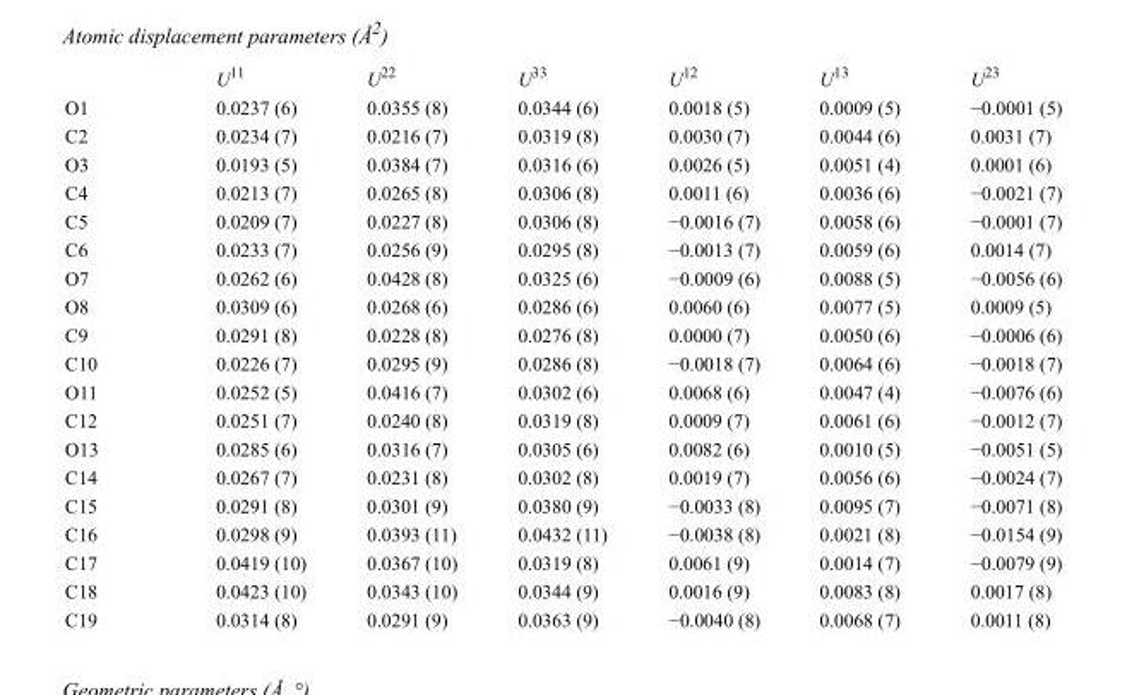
<table><thead><tr><td></td><td>U<sup>11</sup></td><td>U<sup>22</sup></td><td>U<sup>33</sup></td><td>U<sup>12</sup></td><td>U<sup>13</sup></td><td>U<sup>23</sup></td></tr></thead><tbody><tr><td>O1</td><td>0.0237 (6)</td><td>0.0355 (8)</td><td>0.0344 (6)</td><td>0.0018 (5)</td><td>0.0009 (5)</td><td>−0.0001 (5)</td></tr><tr><td>C2</td><td>0.0234 (7)</td><td>0.0216 (7)</td><td>0.0319 (8)</td><td>0.0030 (7)</td><td>0.0044 (6)</td><td>0.0031 (7)</td></tr><tr><td>O3</td><td>0.0193 (5)</td><td>0.0384 (7)</td><td>0.0316 (6)</td><td>0.0026 (5)</td><td>0.0051 (4)</td><td>0.0001 (6)</td></tr><tr><td>C4</td><td>0.0213 (7)</td><td>0.0265 (8)</td><td>0.0306 (8)</td><td>0.0011 (6)</td><td>0.0036 (6)</td><td>−0.0021 (7)</td></tr><tr><td>C5</td><td>0.0209 (7)</td><td>0.0227 (8)</td><td>0.0306 (8)</td><td>−0.0016 (7)</td><td>0.0058 (6)</td><td>−0.0001 (7)</td></tr><tr><td>C6</td><td>0.0233 (7)</td><td>0.0256 (9)</td><td>0.0295 (8)</td><td>−0.0013 (7)</td><td>0.0059 (6)</td><td>0.0014 (7)</td></tr><tr><td>O7</td><td>0.0262 (6)</td><td>0.0428 (8)</td><td>0.0325 (6)</td><td>−0.0009 (6)</td><td>0.0088 (5)</td><td>−0.0056 (6)</td></tr><tr><td>O8</td><td>0.0309 (6)</td><td>0.0268 (6)</td><td>0.0286 (6)</td><td>0.0060 (6)</td><td>0.0077 (5)</td><td>0.0009 (5)</td></tr><tr><td>C9</td><td>0.0291 (8)</td><td>0.0228 (8)</td><td>0.0276 (8)</td><td>0.0000 (7)</td><td>0.0050 (6)</td><td>−0.0006 (6)</td></tr><tr><td>C10</td><td>0.0226 (7)</td><td>0.0295 (9)</td><td>0.0286 (8)</td><td>−0.0018 (7)</td><td>0.0064 (6)</td><td>−0.0018 (7)</td></tr><tr><td>O11</td><td>0.0252 (5)</td><td>0.0416 (7)</td><td>0.0302 (6)</td><td>0.0068 (6)</td><td>0.0047 (4)</td><td>−0.0076 (6)</td></tr><tr><td>C12</td><td>0.0251 (7)</td><td>0.0240 (8)</td><td>0.0319 (8)</td><td>0.0009 (7)</td><td>0.0061 (6)</td><td>−0.0012 (7)</td></tr><tr><td>O13</td><td>0.0285 (6)</td><td>0.0316 (7)</td><td>0.0305 (6)</td><td>0.0082 (6)</td><td>0.0010 (5)</td><td>−0.0051 (5)</td></tr><tr><td>C14</td><td>0.0267 (7)</td><td>0.0231 (8)</td><td>0.0302 (8)</td><td>0.0019 (7)</td><td>0.0056 (6)</td><td>−0.0024 (7)</td></tr><tr><td>C15</td><td>0.0291 (8)</td><td>0.0301 (9)</td><td>0.0380 (9)</td><td>−0.0033 (8)</td><td>0.0095 (7)</td><td>−0.0071 (8)</td></tr><tr><td>C16</td><td>0.0298 (9)</td><td>0.0393 (11)</td><td>0.0432 (11)</td><td>−0.0038 (8)</td><td>0.0021 (8)</td><td>−0.0154 (9)</td></tr><tr><td>C17</td><td>0.0419 (10)</td><td>0.0367 (10)</td><td>0.0319 (8)</td><td>0.0061 (9)</td><td>0.0014 (7)</td><td>−0.0079 (9)</td></tr><tr><td>C18</td><td>0.0423 (10)</td><td>0.0343 (10)</td><td>0.0344 (9)</td><td>0.0016 (9)</td><td>0.0083 (8)</td><td>0.0017 (8)</td></tr><tr><td>C19</td><td>0.0314 (8)</td><td>0.0291 (9)</td><td>0.0363 (9)</td><td>−0.0040 (8)</td><td>0.0068 (7)</td><td>0.0011 (8)</td></tr></tbody></table>